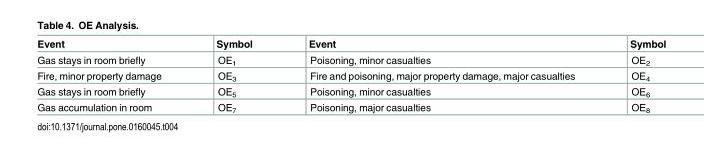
<table><thead><tr><td>Event</td><td>Symbol</td><td>Event</td><td>Symbol</td></tr></thead><tbody><tr><td>Gas stays in room briefly</td><td>OE<sub>1</sub></td><td>Poisoning, minor casualties</td><td>OE<sub>2</sub></td></tr><tr><td>Fire, minor property damage</td><td>OE<sub>3</sub></td><td>Fire and poisoning, major property damage, major casualties</td><td>OE<sub>4</sub></td></tr><tr><td>Gas stays in room briefly</td><td>OE<sub>5</sub></td><td>Poisoning, minor casualties</td><td>OE<sub>6</sub></td></tr><tr><td>Gas accumulation in room</td><td>OE<sub>7</sub></td><td>Poisoning, major casualties</td><td>OE<sub>8</sub></td></tr></tbody></table>